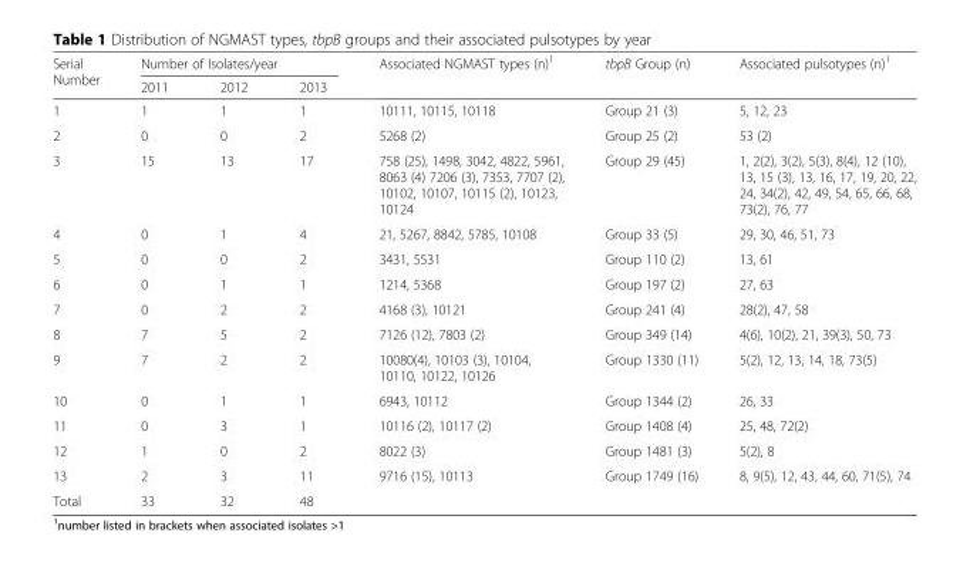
<table><thead><tr><td rowspan="2">Serial Number</td><td colspan="3">Number of Isolates/year</td><td rowspan="2">Associated NGMAST types (n)<sup>1</sup></td><td rowspan="2">tbpB Group (n)</td><td rowspan="2">Associated pulsotypes (n)<sup>1</sup></td></tr><tr><td>2011</td><td>2012</td><td>2013</td></tr></thead><tbody><tr><td>1</td><td>1</td><td>1</td><td>1</td><td>10111, 10115, 10118</td><td>Group 21 (3)</td><td>5, 12, 23</td></tr><tr><td>2</td><td>0</td><td>0</td><td>2</td><td>5268 (2)</td><td>Group 25 (2)</td><td>53 (2)</td></tr><tr><td>3</td><td>15</td><td>13</td><td>17</td><td>758 (25), 1498, 3042, 4822, 5961, 8063 (4) 7206 (3), 7353, 7707 (2), 10102, 10107, 10115 (2), 10123, 10124</td><td>Group 29 (45)</td><td>1, 2(2), 3(2), 5(3), 8(4), 12 (10), 13, 15 (3), 13, 16, 17, 19, 20, 22, 24, 34(2), 42, 49, 54, 65, 66, 68, 73(2), 76, 77</td></tr><tr><td>4</td><td>0</td><td>1</td><td>4</td><td>21, 5267, 8842, 5785, 10108</td><td>Group 33 (5)</td><td>29, 30, 46, 51, 73</td></tr><tr><td>5</td><td>0</td><td>0</td><td>2</td><td>3431, 5531</td><td>Group 110 (2)</td><td>13, 61</td></tr><tr><td>6</td><td>0</td><td>1</td><td>1</td><td>1214, 5368</td><td>Group 197 (2)</td><td>27, 63</td></tr><tr><td>7</td><td>0</td><td>2</td><td>2</td><td>4168 (3), 10121</td><td>Group 241 (4)</td><td>28(2), 47, 58</td></tr><tr><td>8</td><td>7</td><td>5</td><td>2</td><td>7126 (12), 7803 (2)</td><td>Group 349 (14)</td><td>4(6), 10(2), 21, 39(3), 50, 73</td></tr><tr><td>9</td><td>7</td><td>2</td><td>2</td><td>10080(4), 10103 (3), 10104, 10110, 10122, 10126</td><td>Group 1330 (11)</td><td>5(2), 12, 13, 14, 18, 73(5)</td></tr><tr><td>10</td><td>0</td><td>1</td><td>1</td><td>6943, 10112</td><td>Group 1344 (2)</td><td>26, 33</td></tr><tr><td>11</td><td>0</td><td>3</td><td>1</td><td>10116 (2), 10117 (2)</td><td>Group 1408 (4)</td><td>25, 48, 72(2)</td></tr><tr><td>12</td><td>1</td><td>0</td><td>2</td><td>8022 (3)</td><td>Group 1481 (3)</td><td>5(2), 8</td></tr><tr><td>13</td><td>2</td><td>3</td><td>11</td><td>9716 (15), 10113</td><td>Group 1749 (16)</td><td>8, 9(5), 12, 43, 44, 60, 71(5), 74</td></tr><tr><td>Total</td><td>33</td><td>32</td><td>48</td><td colspan="3"></td></tr></tbody></table>